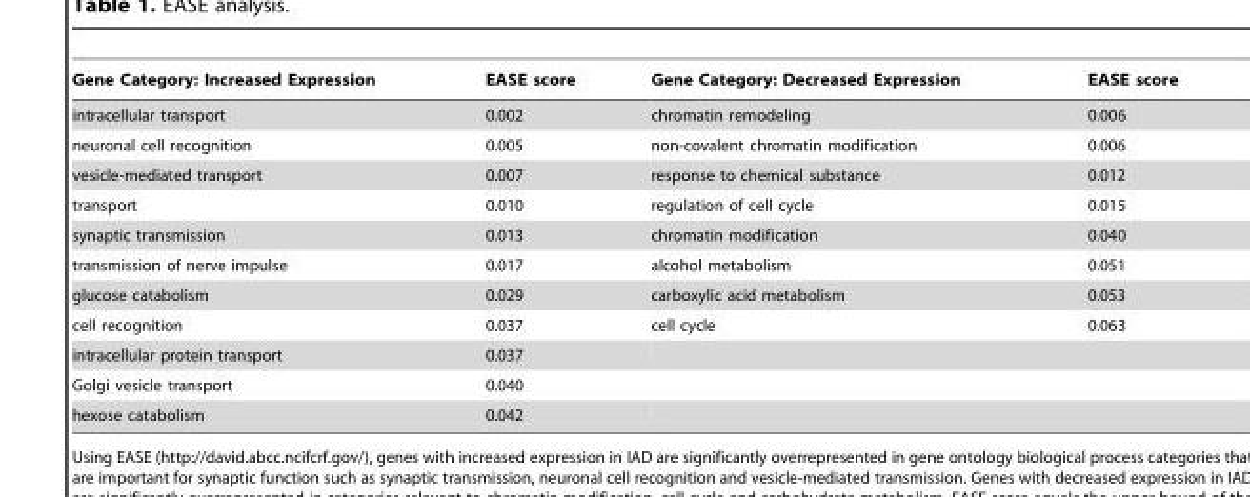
<table><thead><tr><td>Gene Category: Increased Expression</td><td>EASE score</td><td>Gene Category: Decreased Expression</td><td>EASE score</td></tr></thead><tbody><tr><td>intracellular transport</td><td>0.002</td><td>chromatin remodeling</td><td>0.006</td></tr><tr><td>neuronal cell recognition</td><td>0.005</td><td>non-covalent chromatin modification</td><td>0.006</td></tr><tr><td>vesicle-mediated transport</td><td>0.007</td><td>response to chemical substance</td><td>0.012</td></tr><tr><td>transport</td><td>0.010</td><td>regulation of cell cycle</td><td>0.015</td></tr><tr><td>synaptic transmission</td><td>0.013</td><td>chromatin modification</td><td>0.040</td></tr><tr><td>transmission of nerve impulse</td><td>0.017</td><td>alcohol metabolism</td><td>0.051</td></tr><tr><td>glucose catabolism</td><td>0.029</td><td>carboxylic acid metabolism</td><td>0.053</td></tr><tr><td>cell recognition</td><td>0.037</td><td>cell cycle</td><td>0.063</td></tr><tr><td>intracellular protein transport</td><td>0.037</td><td></td><td></td></tr><tr><td>Golgi vesicle transport</td><td>0.040</td><td></td><td></td></tr><tr><td>hexose catabolism</td><td>0.042</td><td></td><td></td></tr></tbody></table>